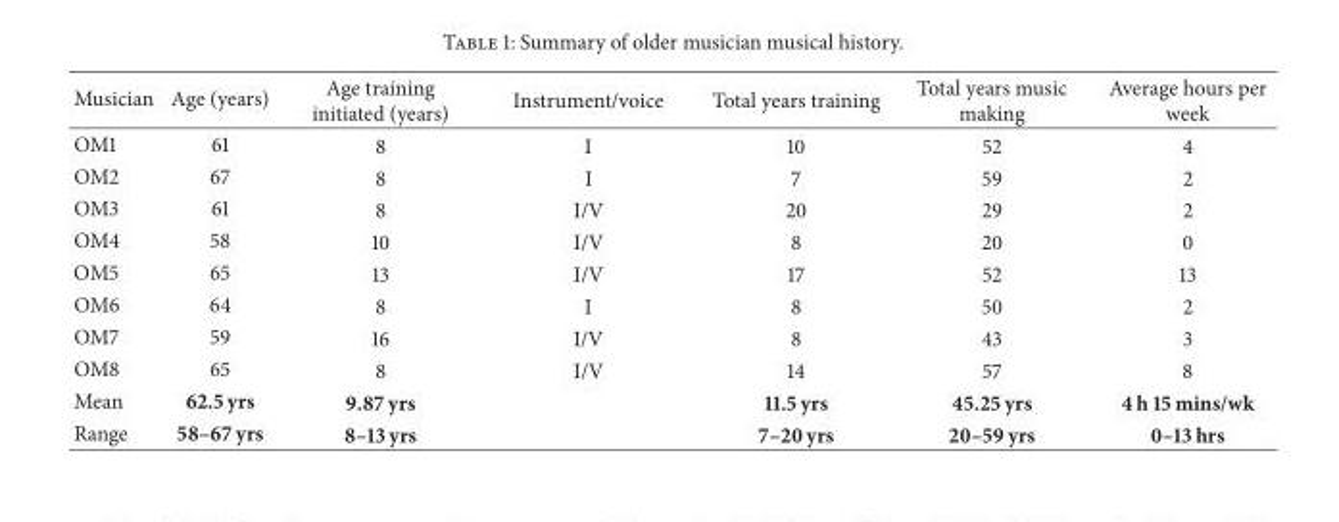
<table><thead><tr><td>Musician</td><td>Age (years)</td><td>Age training initiated (years)</td><td>Instrument/voice</td><td>Total years training</td><td>Total years music making</td><td>Average hours per week</td></tr></thead><tbody><tr><td>OM1</td><td>61</td><td>8</td><td>I</td><td>10</td><td>52</td><td>4</td></tr><tr><td>OM2</td><td>67</td><td>8</td><td>I</td><td>7</td><td>59</td><td>2</td></tr><tr><td>OM3</td><td>61</td><td>8</td><td>I/V</td><td>20</td><td>29</td><td>2</td></tr><tr><td>OM4</td><td>58</td><td>10</td><td>I/V</td><td>8</td><td>20</td><td>0</td></tr><tr><td>OM5</td><td>65</td><td>13</td><td>I/V</td><td>17</td><td>52</td><td>13</td></tr><tr><td>OM6</td><td>64</td><td>8</td><td>I</td><td>8</td><td>50</td><td>2</td></tr><tr><td>OM7</td><td>59</td><td>16</td><td>I/V</td><td>8</td><td>43</td><td>3</td></tr><tr><td>OM8</td><td>65</td><td>8</td><td>I/V</td><td>14</td><td>57</td><td>8</td></tr><tr><td>Mean</td><td>62.5 yrs</td><td>9.87 yrs</td><td></td><td>11.5 yrs</td><td>45.25 yrs</td><td>4 h 15 mins/wk</td></tr><tr><td>Range</td><td>58–67 yrs</td><td>8–13 yrs</td><td></td><td>7–20 yrs</td><td>20–59 yrs</td><td>0–13 hrs</td></tr></tbody></table>